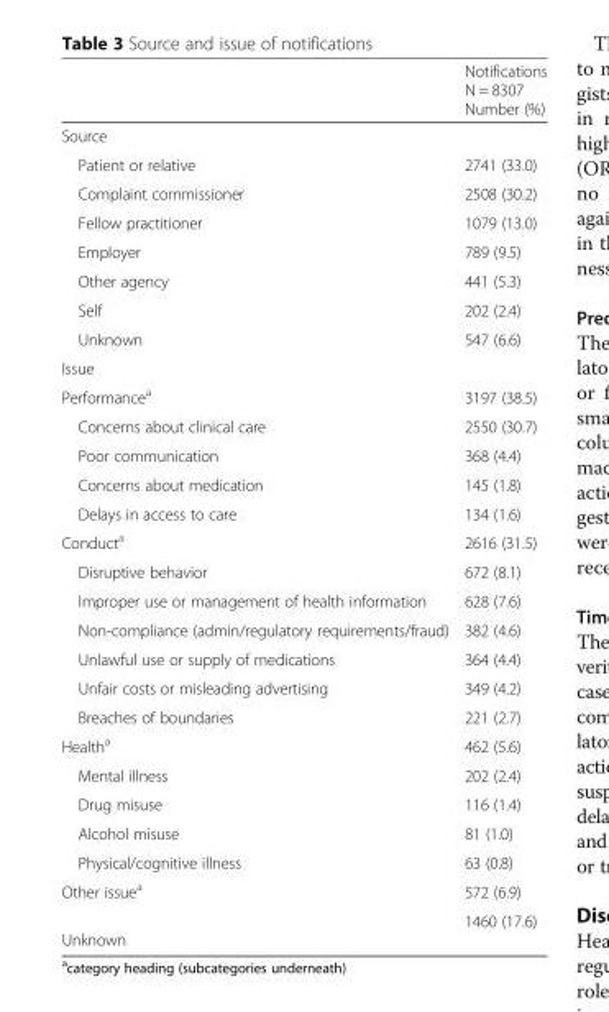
<table><thead><tr><td></td><td>Notifications N = 8307 Number (%)</td></tr></thead><tbody><tr><td colspan="2">Source</td></tr><tr><td>Patient or relative</td><td>2741 (33.0)</td></tr><tr><td>Complaint commissioner</td><td>2508 (30.2)</td></tr><tr><td>Fellow practitioner</td><td>1079 (13.0)</td></tr><tr><td>Employer</td><td>789 (9.5)</td></tr><tr><td>Other agency</td><td>441 (5.3)</td></tr><tr><td>Self</td><td>202 (2.4)</td></tr><tr><td>Unknown</td><td>547 (6.6)</td></tr><tr><td colspan="2">Issue</td></tr><tr><td>Performance<sup>a</sup></td><td>3197 (38.5)</td></tr><tr><td>Concerns about clinical care</td><td>2550 (30.7)</td></tr><tr><td>Poor communication</td><td>368 (4.4)</td></tr><tr><td>Concerns about medication</td><td>145 (1.8)</td></tr><tr><td>Delays in access to care</td><td>134 (1.6)</td></tr><tr><td>Conduct<sup>a</sup></td><td>2616 (31.5)</td></tr><tr><td>Disruptive behavior</td><td>672 (8.1)</td></tr><tr><td>Improper use or management of health information</td><td>628 (7.6)</td></tr><tr><td>Non-compliance (admin/regulatory requirements/fraud)</td><td>382 (4.6)</td></tr><tr><td>Unlawful use or supply of medications</td><td>364 (4.4)</td></tr><tr><td>Unfair costs or misleading advertising</td><td>349 (4.2)</td></tr><tr><td>Breaches of boundaries</td><td>221 (2.7)</td></tr><tr><td>Health<sup>a</sup></td><td>462 (5.6)</td></tr><tr><td>Mental illness</td><td>202 (2.4)</td></tr><tr><td>Drug misuse</td><td>116 (1.4)</td></tr><tr><td>Alcohol misuse</td><td>81 (1.0)</td></tr><tr><td>Physical/cognitive illness</td><td>63 (0.8)</td></tr><tr><td>Other issue<sup>a</sup></td><td>572 (6.9)</td></tr><tr><td>Unknown</td><td>1460 (17.6)</td></tr></tbody></table>